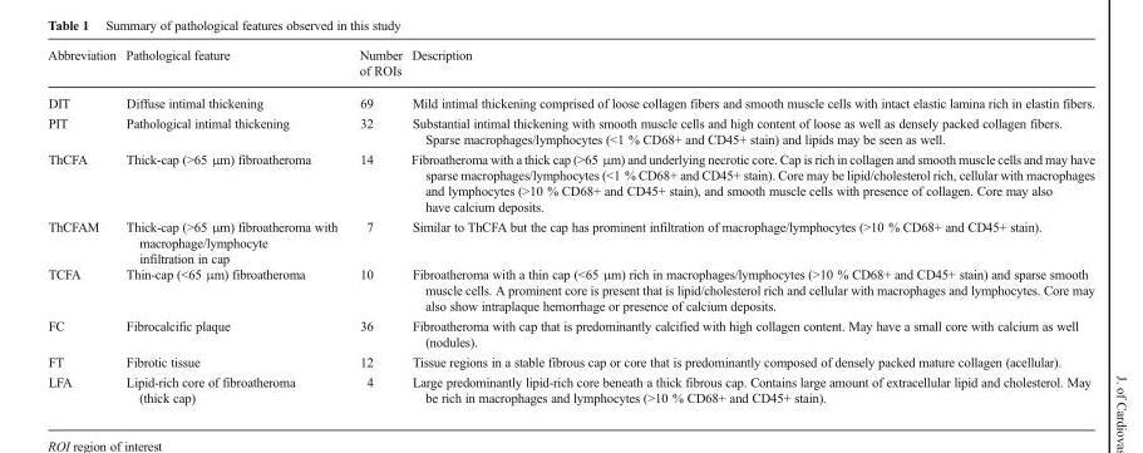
<table><thead><tr><td>Abbreviation</td><td>Pathological feature</td><td>Number of ROIs</td><td>Description</td></tr></thead><tbody><tr><td>DIT</td><td>Diffuse intimal thickening</td><td>69</td><td>Mild intimal thickening comprised of loose collagen fibers and smooth muscle cells with intact elastic lamina rich in elastin fibers.</td></tr><tr><td>PIT</td><td>Pathological intimal thickening</td><td>32</td><td>Substantial intimal thickening with smooth muscle cells and high content of loose as well as densely packed collagen fibers. Sparse macrophages/lymphocytes (&lt;1 % CD68+ and CD45+ stain) and lipids may be seen as well.</td></tr><tr><td>ThCFA</td><td>Thick-cap (&gt;65 μm) fibroatheroma</td><td>14</td><td>Fibroatheroma with a thick cap (&gt;65 μm) and underlying necrotic core. Cap is rich in collagen and smooth muscle cells and may have sparse macrophages/lymphocytes (&lt;1 % CD68+ and CD45+ stain). Core may be lipid/cholesterol rich, cellular with macrophages and lymphocytes (&gt;10 % CD68+ and CD45+ stain), and smooth muscle cells with presence of collagen. Core may also have calcium deposits.</td></tr><tr><td>ThCFAM</td><td>Thick-cap (&gt;65 μm) fibroatheroma with macrophage/lymphocyte infiltration in cap</td><td>7</td><td>Similar to ThCFA but the cap has prominent infiltration of macrophage/lymphocytes (&gt;10 % CD68+ and CD45+ stain).</td></tr><tr><td>TCFA</td><td>Thin-cap (&lt;65 μm) fibroatheroma</td><td>10</td><td>Fibroatheroma with a thin cap (&lt;65 μm) rich in macrophages/lymphocytes (&gt;10 % CD68+ and CD45+ stain) and sparse smooth muscle cells. A prominent core is present that is lipid/cholesterol rich and cellular with macrophages and lymphocytes. Core may also show intraplaque hemorrhage or presence of calcium deposits.</td></tr><tr><td>FC</td><td>Fibrocalcific plaque</td><td>36</td><td>Fibroatheroma with cap that is predominantly calcified with high collagen content. May have a small core with calcium as well (nodules).</td></tr><tr><td>FT</td><td>Fibrotic tissue</td><td>12</td><td>Tissue regions in a stable fibrous cap or core that is predominantly composed of densely packed mature collagen (acellular).</td></tr><tr><td>LFA</td><td>Lipid-rich core of fibroatheroma (thick cap)</td><td>4</td><td>Large predominantly lipid-rich core beneath a thick fibrous cap. Contains large amount of extracellular lipid and cholesterol. May be rich in macrophages and lymphocytes (&gt;10 % CD68+ and CD45+ stain).</td></tr></tbody></table>